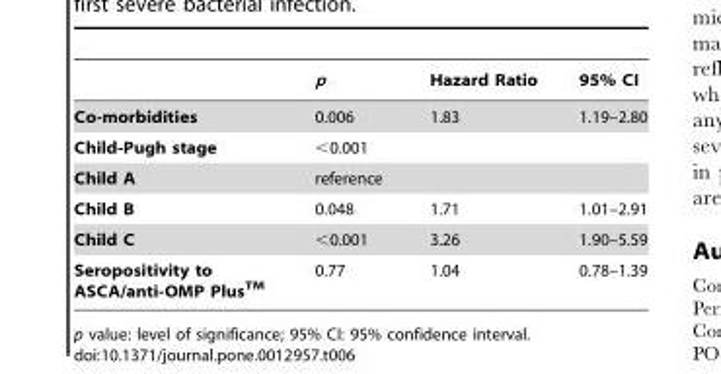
<table><thead><tr><td></td><td>p</td><td>Hazard Ratio</td><td>95% CI</td></tr></thead><tbody><tr><td>Co-morbidities</td><td>0.006</td><td>1.83</td><td>1.19–2.80</td></tr><tr><td>Child-Pugh stage</td><td colspan="3">&lt;0.001</td></tr><tr><td>Child A</td><td colspan="3">reference</td></tr><tr><td>Child B</td><td>0.048</td><td>1.71</td><td>1.01–2.91</td></tr><tr><td>Child C</td><td>&lt;0.001</td><td>3.26</td><td>1.90–5.59</td></tr><tr><td>Seropositivity to ASCA/anti-OMP PlusTM</td><td>0.77</td><td>1.04</td><td>0.78–1.39</td></tr></tbody></table>